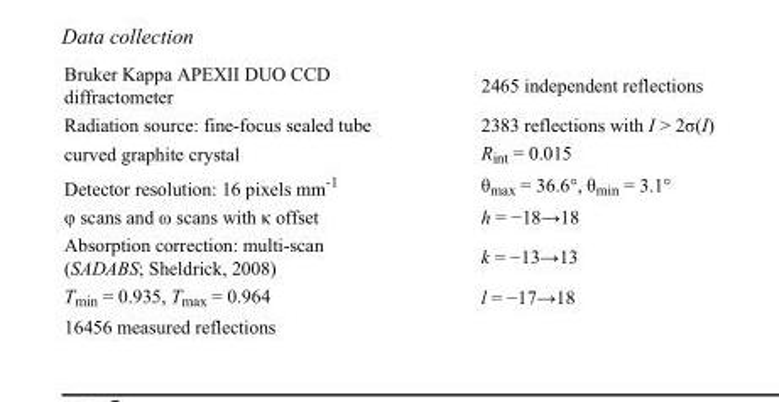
<table><tbody><tr><td>Bruker Kappa APEXII DUO CCD diffractometer</td><td>2465 independent reflections</td></tr><tr><td>Radiation source: fine-focus sealed tube</td><td>2383 reflections with I &gt; 2σ(I)</td></tr><tr><td>curved graphite crystal</td><td>R<sub>int</sub> = 0.015</td></tr><tr><td>Detector resolution: 16 pixels mm<sup>-1</sup></td><td>θ<sub>max</sub> = 36.6°, θ<sub>min</sub> = 3.1°</td></tr><tr><td>φ scans and ω scans with κ offset</td><td>h = −18→18</td></tr><tr><td>Absorption correction: multi-scan (SADABS; Sheldrick, 2008)</td><td>k = −13→13</td></tr><tr><td>T<sub>min</sub> = 0.935, T<sub>max</sub> = 0.964</td><td>l = −17→18</td></tr><tr><td>16456 measured reflections</td><td></td></tr></tbody></table>